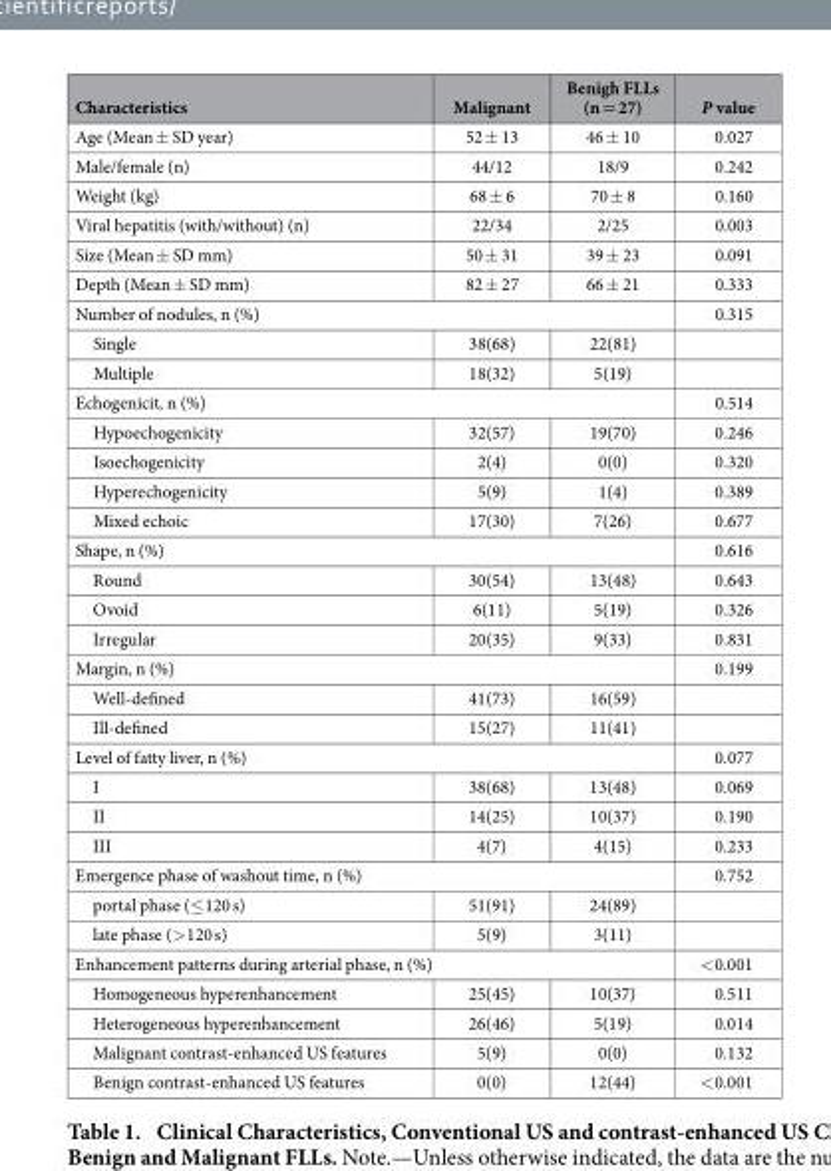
<table><thead><tr><td>Characteristics</td><td>Malignant</td><td>Benigh FLLs (n = 27)</td><td>P value</td></tr></thead><tbody><tr><td>Age (Mean ± SD year)</td><td>52 ± 13</td><td>46 ± 10</td><td>0.027</td></tr><tr><td>Male/female (n)</td><td>44/12</td><td>18/9</td><td>0.242</td></tr><tr><td>Weight (kg)</td><td>68 ± 6</td><td>70 ± 8</td><td>0.160</td></tr><tr><td>Viral hepatitis (with/without) (n)</td><td>22/34</td><td>2/25</td><td>0.003</td></tr><tr><td>Size (Mean ± SD mm)</td><td>50 ± 31</td><td>39 ± 23</td><td>0.091</td></tr><tr><td>Depth (Mean ± SD mm)</td><td>82 ± 27</td><td>66 ± 21</td><td>0.333</td></tr><tr><td colspan="3">Number of nodules, n (%)</td><td>0.315</td></tr><tr><td>Single</td><td>38(68)</td><td>22(81)</td><td></td></tr><tr><td>Multiple</td><td>18(32)</td><td>5(19)</td><td></td></tr><tr><td colspan="3">Echogenicit, n (%)</td><td>0.514</td></tr><tr><td>Hypoechogenicity</td><td>32(57)</td><td>19(70)</td><td>0.246</td></tr><tr><td>Isoechogenicity</td><td>2(4)</td><td>0(0)</td><td>0.320</td></tr><tr><td>Hyperechogenicity</td><td>5(9)</td><td>1(4)</td><td>0.389</td></tr><tr><td>Mixed echoic</td><td>17(30)</td><td>7(26)</td><td>0.677</td></tr><tr><td colspan="3">Shape, n (%)</td><td>0.616</td></tr><tr><td>Round</td><td>30(54)</td><td>13(48)</td><td>0.643</td></tr><tr><td>Ovoid</td><td>6(11)</td><td>5(19)</td><td>0.326</td></tr><tr><td>Irregular</td><td>20(35)</td><td>9(33)</td><td>0.831</td></tr><tr><td colspan="3">Margin, n (%)</td><td>0.199</td></tr><tr><td>Well-defined</td><td>41(73)</td><td>16(59)</td><td></td></tr><tr><td>Ill-defined</td><td>15(27)</td><td>11(41)</td><td></td></tr><tr><td colspan="3">Level of fatty liver, n (%)</td><td>0.077</td></tr><tr><td>I</td><td>38(68)</td><td>13(48)</td><td>0.069</td></tr><tr><td>II</td><td>14(25)</td><td>10(37)</td><td>0.190</td></tr><tr><td>III</td><td>4(7)</td><td>4(15)</td><td>0.233</td></tr><tr><td colspan="3">Emergence phase of washout time, n (%)</td><td>0.752</td></tr><tr><td>portal phase (≤ 120 s)</td><td>51(91)</td><td>24(89)</td><td></td></tr><tr><td>late phase (&gt; 120 s)</td><td>5(9)</td><td>3(11)</td><td></td></tr><tr><td colspan="3">Enhancement patterns during arterial phase, n (%)</td><td>&lt; 0.001</td></tr><tr><td>Homogeneous hyperenhancement</td><td>25(45)</td><td>10(37)</td><td>0.511</td></tr><tr><td>Heterogeneous hyperenhancement</td><td>26(46)</td><td>5(19)</td><td>0.014</td></tr><tr><td>Malignant contrast-enhanced US features</td><td>5(9)</td><td>0(0)</td><td>0.132</td></tr><tr><td>Benign contrast-enhanced US features</td><td>0(0)</td><td>12(44)</td><td>&lt; 0.001</td></tr></tbody></table>